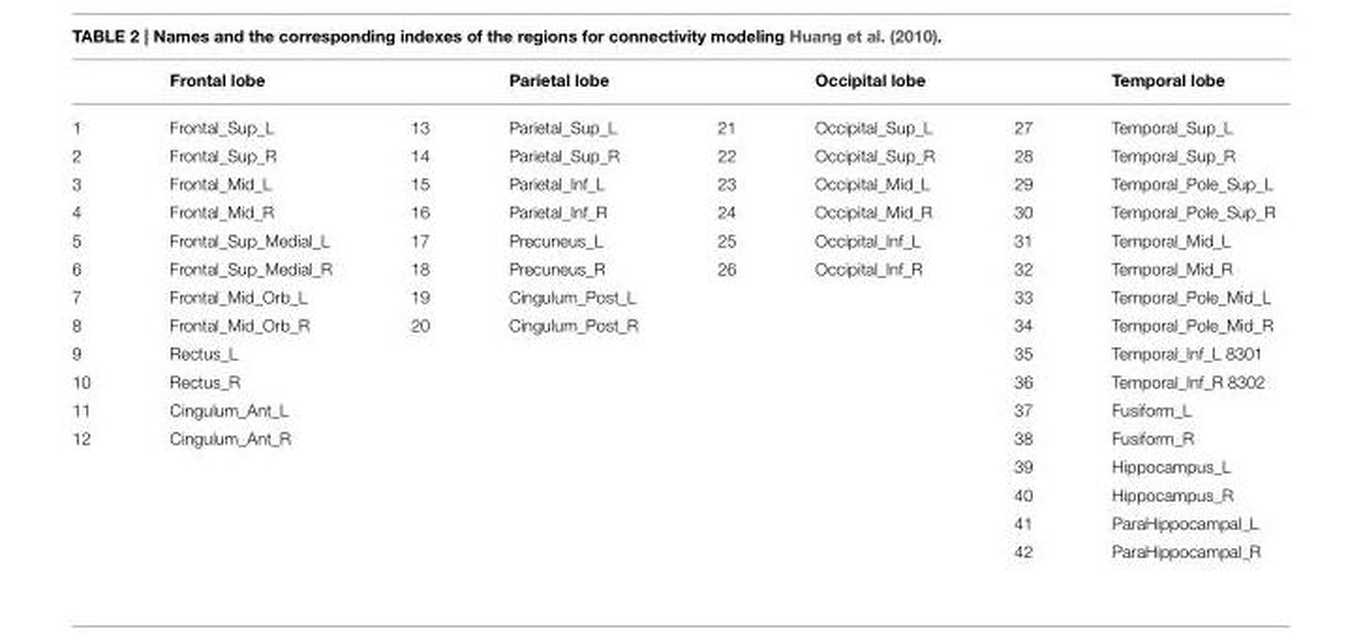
<table><thead><tr><td></td><td>Frontal lobe</td><td></td><td>Parietal lobe</td><td></td><td>Occipital lobe</td><td></td><td>Temporal lobe</td></tr></thead><tbody><tr><td>1</td><td>Frontal_Sup_L</td><td>13</td><td>Parietal_Sup_L</td><td>21</td><td>Occipital_Sup_L</td><td>27</td><td>Temporal_Sup_L</td></tr><tr><td>2</td><td>Frontal_Sup_R</td><td>14</td><td>Parietal_Sup_R</td><td>22</td><td>Occipital_Sup_R</td><td>28</td><td>Temporal_Sup_R</td></tr><tr><td>3</td><td>Frontal_Mid_L</td><td>15</td><td>Parietal_Inf_L</td><td>23</td><td>Occipital_Mid_L</td><td>29</td><td>Temporal_Pole_Sup_L</td></tr><tr><td>4</td><td>Frontal_Mid_R</td><td>16</td><td>Parietal_Inf_R</td><td>24</td><td>Occipital_Mid_R</td><td>30</td><td>Temporal_Pole_Sup_R</td></tr><tr><td>5</td><td>Frontal_Sup_Medial_L</td><td>17</td><td>Precuneus_L</td><td>25</td><td>Occipital_Inf_L</td><td>31</td><td>Temporal_Mid_L</td></tr><tr><td>6</td><td>Frontal_Sup_Medial_R</td><td>18</td><td>Precuneus_R</td><td>26</td><td>Occipital_Inf_R</td><td>32</td><td>Temporal_Mid_R</td></tr><tr><td>7</td><td>Frontal_Mid_Orb_L</td><td>19</td><td>Cingulum_Post_L</td><td></td><td></td><td>33</td><td>Temporal_Pole_Mid_L</td></tr><tr><td>8</td><td>Frontal_Mid_Orb_R</td><td>20</td><td>Cingulum_Post_R</td><td></td><td></td><td>34</td><td>Temporal_Pole_Mid_R</td></tr><tr><td>9</td><td>Rectus_L</td><td></td><td></td><td></td><td></td><td>35</td><td>Temporal_Inf_L 8301</td></tr><tr><td>10</td><td>Rectus_R</td><td></td><td></td><td></td><td></td><td>36</td><td>Temporal_Inf_R 8302</td></tr><tr><td>11</td><td>Cingulum_Ant_L</td><td></td><td></td><td></td><td></td><td>37</td><td>Fusiform_L</td></tr><tr><td rowspan="5">12</td><td>Cingulum_Ant_R</td><td></td><td></td><td></td><td></td><td>38</td><td>Fusiform_R</td></tr><tr><td></td><td></td><td></td><td></td><td></td><td>39</td><td>Hippocampus_L</td></tr><tr><td></td><td></td><td></td><td></td><td></td><td>40</td><td>Hippocampus_R</td></tr><tr><td></td><td></td><td></td><td></td><td></td><td>41</td><td>ParaHippocampal_L</td></tr><tr><td></td><td></td><td></td><td></td><td></td><td>42</td><td>ParaHippocampal_R</td></tr></tbody></table>